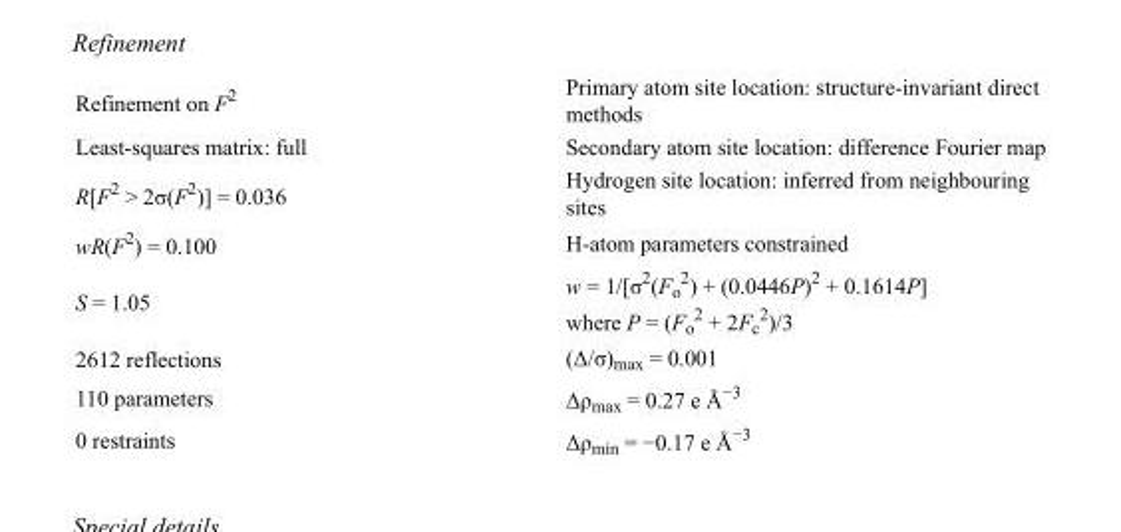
<table><tbody><tr><td>Refinement on F<sup>2</sup></td><td>Primary atom site location: structure-invariant direct methods</td></tr><tr><td>Least-squares matrix: full</td><td>Secondary atom site location: difference Fourier map</td></tr><tr><td>R[F<sup>2</sup> &gt; 2σ(F<sup>2</sup>)] = 0.036</td><td>Hydrogen site location: inferred from neighbouring sites</td></tr><tr><td>wR(F<sup>2</sup>) = 0.100</td><td>H-atom parameters constrained</td></tr><tr><td>S = 1.05</td><td>w = 1/[σ<sup>2</sup>(F<sub>o</sub> <sup>2</sup>) + (0.0446P)<sup>2</sup> + 0.1614P] where P = (F<sub>o</sub> <sup>2</sup> + 2F<sub>c</sub> <sup>2</sup>)/3</td></tr><tr><td>2612 reflections</td><td>(Δ/σ)<sub>max</sub> = 0.001</td></tr><tr><td>110 parameters</td><td>Δρ<sub>max</sub> = 0.27 e Å<sup>−3</sup></td></tr><tr><td>0 restraints</td><td>Δρ<sub>min</sub> = −0.17 e Å<sup>−3</sup></td></tr></tbody></table>